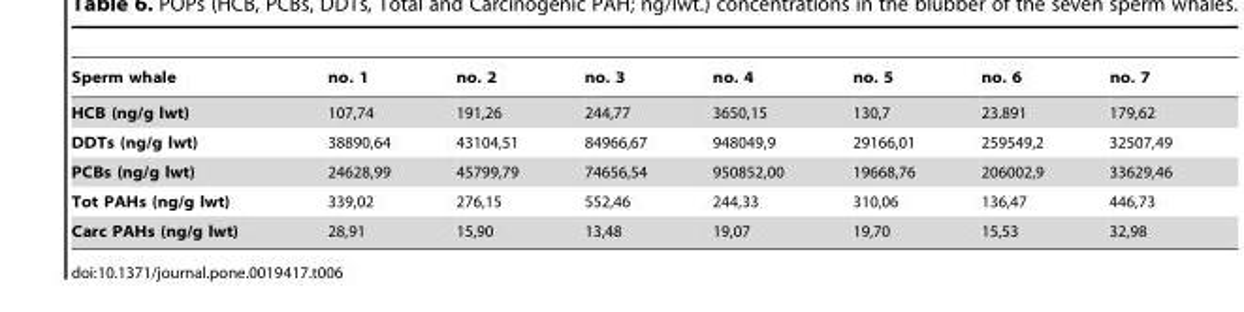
<table><thead><tr><td>Sperm whale</td><td>no. 1</td><td>no. 2</td><td>no. 3</td><td>no. 4</td><td>no. 5</td><td>no. 6</td><td>no. 7</td></tr></thead><tbody><tr><td>HCB (ng/g lwt)</td><td>107,74</td><td>191,26</td><td>244,77</td><td>3650,15</td><td>130,7</td><td>23.891</td><td>179,62</td></tr><tr><td>DDTs (ng/g lwt)</td><td>38890,64</td><td>43104,51</td><td>84966,67</td><td>948049,9</td><td>29166,01</td><td>259549,2</td><td>32507,49</td></tr><tr><td>PCBs (ng/g lwt)</td><td>24628,99</td><td>45799,79</td><td>74656,54</td><td>950852,00</td><td>19668,76</td><td>206002,9</td><td>33629,46</td></tr><tr><td>Tot PAHs (ng/g lwt)</td><td>339,02</td><td>276,15</td><td>552,46</td><td>244,33</td><td>310,06</td><td>136,47</td><td>446,73</td></tr><tr><td>Carc PAHs (ng/g lwt)</td><td>28,91</td><td>15,90</td><td>13,48</td><td>19,07</td><td>19,70</td><td>15,53</td><td>32,98</td></tr></tbody></table>